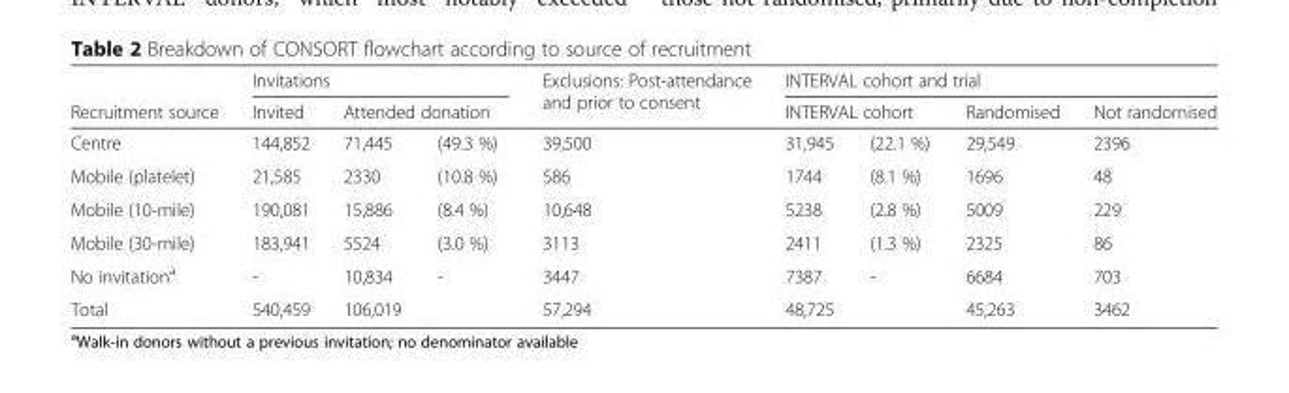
<table><thead><tr><td rowspan="3">Recruitment source Centre</td><td colspan="3">Invitations</td><td rowspan="3">Exclusions: Post-attendance and prior to consent 39,500</td><td colspan="4">INTERVAL cohort and trial</td></tr><tr><td rowspan="2">Invited 144,852</td><td colspan="2">Attended donation</td><td colspan="2">INTERVAL cohort</td><td rowspan="2">Randomised 29,549</td><td rowspan="2">Not randomised 2396</td></tr><tr><td>71,445</td><td>(49.3 %)</td><td>31,945</td><td>(22.1 %)</td></tr></thead><tbody><tr><td>Mobile (platelet)</td><td>21,585</td><td>2330</td><td>(10.8 %)</td><td>586</td><td>1744</td><td>(8.1 %)</td><td>1696</td><td>48</td></tr><tr><td>Mobile (10-mile)</td><td>190,081</td><td>15,886</td><td>(8.4 %)</td><td>10,648</td><td>5238</td><td>(2.8 %)</td><td>5009</td><td>229</td></tr><tr><td>Mobile (30-mile)</td><td>183,941</td><td>5524</td><td>(3.0 %)</td><td>3113</td><td>2411</td><td>(1.3 %)</td><td>2325</td><td>86</td></tr><tr><td>No invitation<sup>a</sup></td><td>-</td><td>10,834</td><td>-</td><td>3447</td><td>7387</td><td>-</td><td>6684</td><td>703</td></tr><tr><td>Total</td><td>540,459</td><td colspan="2">106,019</td><td>57,294</td><td colspan="2">48,725</td><td>45,263</td><td>3462</td></tr></tbody></table>